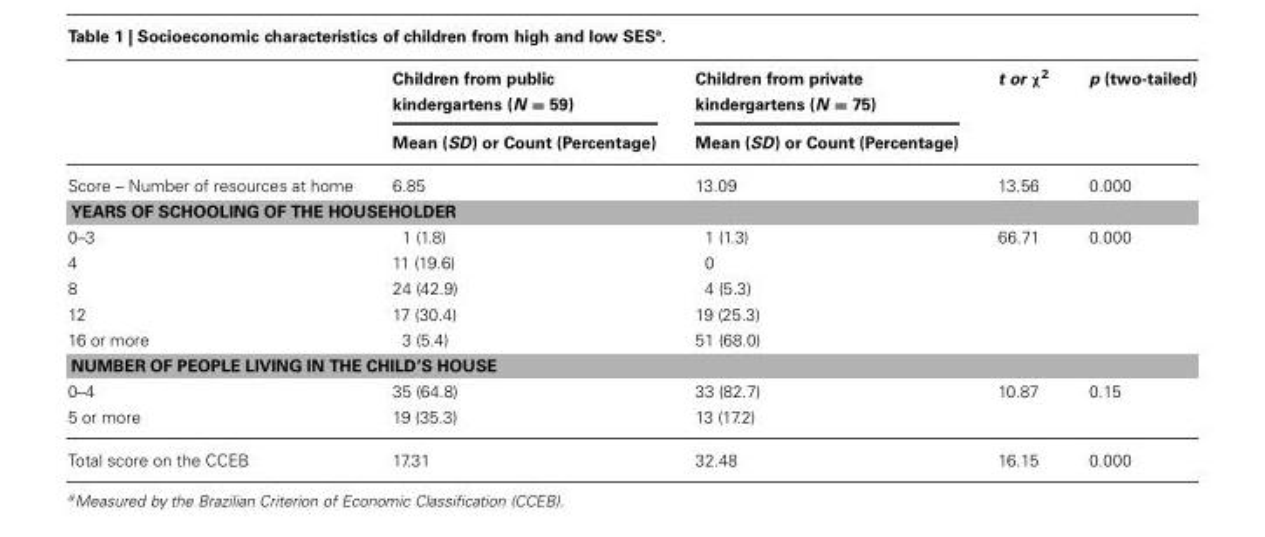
<table><thead><tr><td rowspan="2"></td><td rowspan="2">Children from public kindergartens (N = 59) Mean (SD) or Count (Percentage)</td><td rowspan="2">Children from private kindergartens (N = 75) Mean (SD) or Count (Percentage)</td><td rowspan="2">t or χ<sup>2</sup></td><td rowspan="2">p (two-tailed)</td></tr><tr></tr></thead><tbody><tr><td>Score – Number of resources at home</td><td>6.85</td><td>13.09</td><td>13.56</td><td>0.000</td></tr><tr><td colspan="5">YEARS OF SCHOOLING OF THE HOUSEHOLDER</td></tr><tr><td>0–3</td><td>1 (1.8)</td><td>1 (1.3)</td><td>66.71</td><td>0.000</td></tr><tr><td>4</td><td>11 (19.6)</td><td>0</td><td></td><td></td></tr><tr><td>8</td><td>24 (42.9)</td><td>4 (5.3)</td><td></td><td></td></tr><tr><td>12</td><td>17 (30.4)</td><td>19 (25.3)</td><td></td><td></td></tr><tr><td>16 or more</td><td>3 (5.4)</td><td>51 (68.0)</td><td></td><td></td></tr><tr><td colspan="5">NUMBER OF PEOPLE LIVING IN THE CHILD’S HOUSE</td></tr><tr><td>0–4</td><td>35 (64.8)</td><td>33 (82.7)</td><td>10.87</td><td>0.15</td></tr><tr><td>5 or more</td><td>19 (35.3)</td><td>13 (17.2)</td><td></td><td></td></tr><tr><td>Total score on the CCEB</td><td>17.31</td><td>32.48</td><td>16.15</td><td>0.000</td></tr></tbody></table>